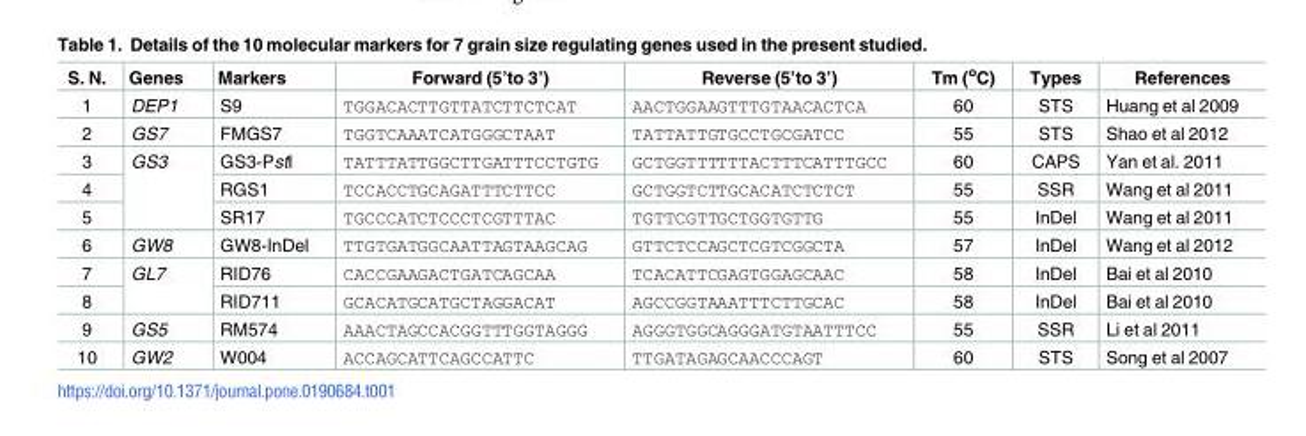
<table><thead><tr><td>S. N.</td><td>Genes</td><td>Markers</td><td>Forward (5’to 3’)</td><td>Reverse (5’to 3’)</td><td>Tm (<sup>o</sup>C)</td><td>Types</td><td>References</td></tr></thead><tbody><tr><td>1</td><td>DEP1</td><td>S9</td><td>TGGACACTTGTTATCTTCTCAT</td><td>AACTGGAAGTTTGTAACACTCA</td><td>60</td><td>STS</td><td>Huang et al 2009</td></tr><tr><td>2</td><td>GS7</td><td>FMGS7</td><td>TGGTCAAATCATGGGCTAAT</td><td>TATTATTGTGCCTGCGATCC</td><td>55</td><td>STS</td><td>Shao et al 2012</td></tr><tr><td>3</td><td rowspan="3">GS3</td><td>GS3-PstI</td><td>TATTTATTGGCTTGATTTCCTGTG</td><td>GCTGGTTTTTTACTTTCATTTGCC</td><td>60</td><td>CAPS</td><td>Yan et al. 2011</td></tr><tr><td>4</td><td>RGS1</td><td>TCCACCTGCAGATTTCTTCC</td><td>GCTGGTCTTGCACATCTCTCT</td><td>55</td><td>SSR</td><td>Wang et al 2011</td></tr><tr><td>5</td><td>SR17</td><td>TGCCCATCTCCCTCGTTTAC</td><td>TGTTCGTTGCTGGTGTTG</td><td>55</td><td>InDel</td><td>Wang et al 2011</td></tr><tr><td>6</td><td>GW8</td><td>GW8-InDel</td><td>TTGTGATGGCAATTAGTAAGCAG</td><td>GTTCTCCAGCTCGTCGGCTA</td><td>57</td><td>InDel</td><td>Wang et al 2012</td></tr><tr><td>7</td><td rowspan="2">GL7</td><td>RID76</td><td>CACCGAAGACTGATCAGCAA</td><td>TCACATTCGAGTGGAGCAAC</td><td>58</td><td>InDel</td><td>Bai et al 2010</td></tr><tr><td>8</td><td>RID711</td><td>GCACATGCATGCTAGGACAT</td><td>AGCCGGTAAATTTCTTGCAC</td><td>58</td><td>InDel</td><td>Bai et al 2010</td></tr><tr><td>9</td><td>GS5</td><td>RM574</td><td>AAACTAGCCACGGTTTGGTAGGG</td><td>AGGGTGGCAGGGATGTAATTTCC</td><td>55</td><td>SSR</td><td>Li et al 2011</td></tr><tr><td>10</td><td>GW2</td><td>W004</td><td>ACCAGCATTCAGCCATTC</td><td>TTGATAGAGCAACCCAGT</td><td>60</td><td>STS</td><td>Song et al 2007</td></tr></tbody></table>